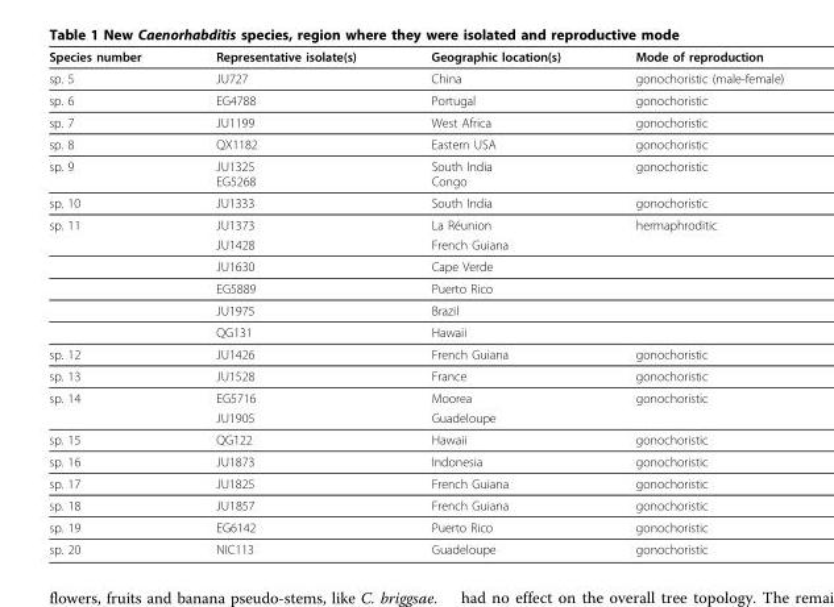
<table><thead><tr><td>Species number</td><td>Representative isolate(s)</td><td>Geographic location(s)</td><td>Mode of reproduction</td></tr></thead><tbody><tr><td>sp. 5</td><td>JU727</td><td>China</td><td>gonochoristic (male-female)</td></tr><tr><td>sp. 6</td><td>EG4788</td><td>Portugal</td><td>gonochoristic</td></tr><tr><td>sp. 7</td><td>JU1199</td><td>West Africa</td><td>gonochoristic</td></tr><tr><td>sp. 8</td><td>QX1182</td><td>Eastern USA</td><td>gonochoristic</td></tr><tr><td>sp. 9</td><td>JU1325 EG5268</td><td>South India Congo</td><td>gonochoristic</td></tr><tr><td>sp. 10</td><td>JU1333</td><td>South India</td><td>gonochoristic</td></tr><tr><td rowspan="6">sp. 11</td><td>JU1373</td><td>La Réunion</td><td>hermaphroditic</td></tr><tr><td>JU1428</td><td>French Guiana</td><td></td></tr><tr><td>JU1630</td><td>Cape Verde</td><td></td></tr><tr><td>EG5889</td><td>Puerto Rico</td><td></td></tr><tr><td>JU1975</td><td>Brazil</td><td></td></tr><tr><td>QG131</td><td>Hawaii</td><td></td></tr><tr><td>sp. 12</td><td>JU1426</td><td>French Guiana</td><td>gonochoristic</td></tr><tr><td>sp. 13</td><td>JU1528</td><td>France</td><td>gonochoristic</td></tr><tr><td rowspan="2">sp. 14</td><td>EG5716</td><td>Moorea</td><td>gonochoristic</td></tr><tr><td>JU1905</td><td>Guadeloupe</td><td></td></tr><tr><td>sp. 15</td><td>QG122</td><td>Hawaii</td><td>gonochoristic</td></tr><tr><td>sp. 16</td><td>JU1873</td><td>Indonesia</td><td>gonochoristic</td></tr><tr><td>sp. 17</td><td>JU1825</td><td>French Guiana</td><td>gonochoristic</td></tr><tr><td>sp. 18</td><td>JU1857</td><td>French Guiana</td><td>gonochoristic</td></tr><tr><td>sp. 19</td><td>EG6142</td><td>Puerto Rico</td><td>gonochoristic</td></tr><tr><td>sp. 20</td><td>NIC113</td><td>Guadeloupe</td><td>gonochoristic</td></tr></tbody></table>